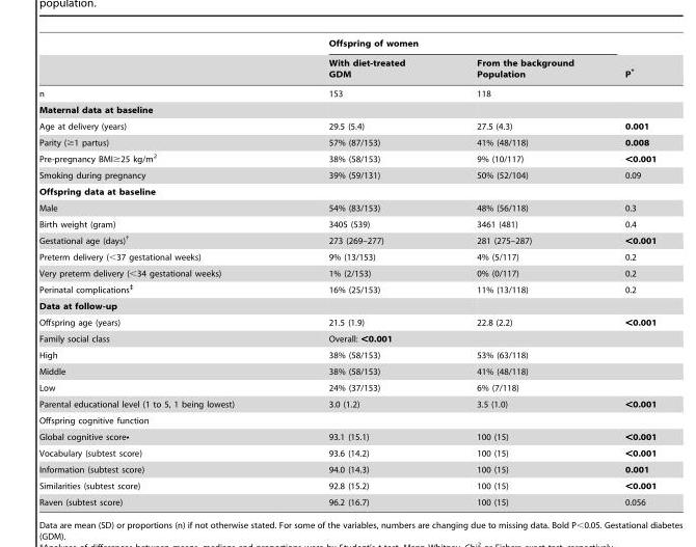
<table><thead><tr><td rowspan="2"></td><td colspan="2">Offspring of women</td><td rowspan="2">P*</td></tr><tr><td>With diet-treated GDM</td><td>From the background Population</td></tr></thead><tbody><tr><td>n</td><td>153</td><td>118</td><td></td></tr><tr><td colspan="4">Maternal data at baseline</td></tr><tr><td>Age at delivery (years)</td><td>29.5 (5.4)</td><td>27.5 (4.3)</td><td>0.001</td></tr><tr><td>Parity (≥1 partus)</td><td>57% (87/153)</td><td>41% (48/118)</td><td>0.008</td></tr><tr><td>Pre-pregnancy BMI≥25 kg/m<sup>2</sup></td><td>38% (58/153)</td><td>9% (10/117)</td><td>&lt;0.001</td></tr><tr><td>Smoking during pregnancy</td><td>39% (59/131)</td><td>50% (52/104)</td><td>0.09</td></tr><tr><td colspan="4">Offspring data at baseline</td></tr><tr><td>Male</td><td>54% (83/153)</td><td>48% (56/118)</td><td>0.3</td></tr><tr><td>Birth weight (gram)</td><td>3405 (539)</td><td>3461 (481)</td><td>0.4</td></tr><tr><td>Gestational age (days)†</td><td>273 (269–277)</td><td>281 (275–287)</td><td>&lt;0.001</td></tr><tr><td>Preterm delivery (&lt;37 gestational weeks)</td><td>9% (13/153)</td><td>4% (5/117)</td><td>0.2</td></tr><tr><td>Very preterm delivery (&lt;34 gestational weeks)</td><td>1% (2/153)</td><td>0% (0/117)</td><td>0.2</td></tr><tr><td>Perinatal complications‡</td><td>16% (25/153)</td><td>11% (13/118)</td><td>0.2</td></tr><tr><td colspan="4">Data at follow-up</td></tr><tr><td>Offspring age (years)</td><td>21.5 (1.9)</td><td>22.8 (2.2)</td><td>&lt;0.001</td></tr><tr><td>Family social class</td><td colspan="3">Overall: &lt;0.001</td></tr><tr><td>High</td><td>38% (58/153)</td><td>53% (63/118)</td><td></td></tr><tr><td>Middle</td><td>38% (58/153)</td><td>41% (48/118)</td><td></td></tr><tr><td>Low</td><td>24% (37/153)</td><td>6% (7/118)</td><td></td></tr><tr><td>Parental educational level (1 to 5, 1 being lowest)</td><td>3.0 (1.2)</td><td>3.5 (1.0)</td><td>&lt;0.001</td></tr><tr><td colspan="4">Offspring cognitive function</td></tr><tr><td>Global cognitive score•</td><td>93.1 (15.1)</td><td>100 (15)</td><td>&lt;0.001</td></tr><tr><td>Vocabulary (subtest score)</td><td>93.6 (14.2)</td><td>100 (15)</td><td>&lt;0.001</td></tr><tr><td>Information (subtest score)</td><td>94.0 (14.3)</td><td>100 (15)</td><td>0.001</td></tr><tr><td>Similarities (subtest score)</td><td>92.8 (15.2)</td><td>100 (15)</td><td>&lt;0.001</td></tr><tr><td>Raven (subtest score)</td><td>96.2 (16.7)</td><td>100 (15)</td><td>0.056</td></tr></tbody></table>